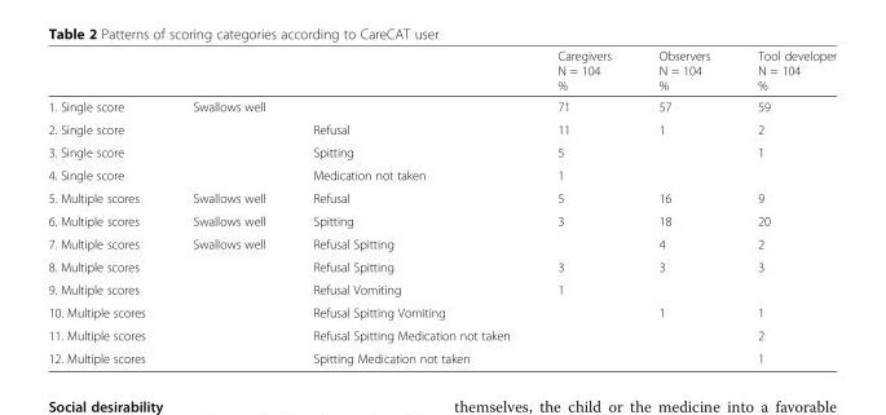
<table><thead><tr><td></td><td></td><td></td><td>Caregivers N = 104 %</td><td>Observers N = 104 %</td><td>Tool developer N = 104 %</td></tr></thead><tbody><tr><td>1. Single score</td><td>Swallows well</td><td></td><td>71</td><td>57</td><td>59</td></tr><tr><td>2. Single score</td><td></td><td>Refusal</td><td>11</td><td>1</td><td>2</td></tr><tr><td>3. Single score</td><td></td><td>Spitting</td><td>5</td><td></td><td>1</td></tr><tr><td>4. Single score</td><td></td><td>Medication not taken</td><td>1</td><td></td><td></td></tr><tr><td>5. Multiple scores</td><td>Swallows well</td><td>Refusal</td><td>5</td><td>16</td><td>9</td></tr><tr><td>6. Multiple scores</td><td>Swallows well</td><td>Spitting</td><td>3</td><td>18</td><td>20</td></tr><tr><td>7. Multiple scores</td><td>Swallows well</td><td>Refusal Spitting</td><td></td><td>4</td><td>2</td></tr><tr><td>8. Multiple scores</td><td></td><td>Refusal Spitting</td><td>3</td><td>3</td><td>3</td></tr><tr><td>9. Multiple scores</td><td></td><td>Refusal Vomiting</td><td>1</td><td></td><td></td></tr><tr><td>10. Multiple scores</td><td></td><td>Refusal Spitting Vomiting</td><td></td><td>1</td><td>1</td></tr><tr><td>11. Multiple scores</td><td></td><td>Refusal Spitting Medication not taken</td><td></td><td></td><td>2</td></tr><tr><td>12. Multiple scores</td><td></td><td>Spitting Medication not taken</td><td></td><td></td><td>1</td></tr></tbody></table>